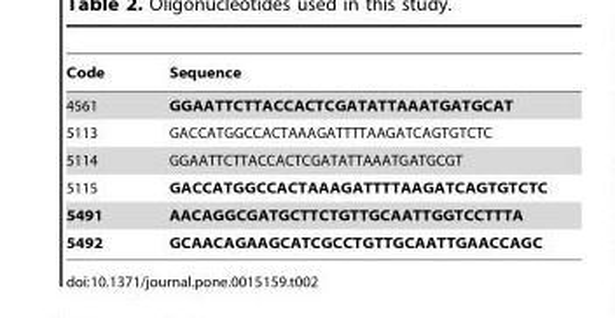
<table><thead><tr><td>Code</td><td>Sequence</td></tr></thead><tbody><tr><td>4561</td><td>GGAATTCTTACCACTCGATATTAAATGATGCAT</td></tr><tr><td>5113</td><td>GACCATGGCCACTAAAGATTTTAAGATCAGTGTCTC</td></tr><tr><td>5114</td><td>GGAATTCTTACCACTCGATATTAAATGATGCGT</td></tr><tr><td>5115</td><td>GACCATGGCCACTAAAGATTTTAAGATCAGTGTCTC</td></tr><tr><td>5491</td><td>AACAGGCGATGCTTCTGTTGCAATTGGTCCTTTA</td></tr><tr><td>5492</td><td>GCAACAGAAGCATCGCCTGTTGCAATTGAACCAGC</td></tr></tbody></table>